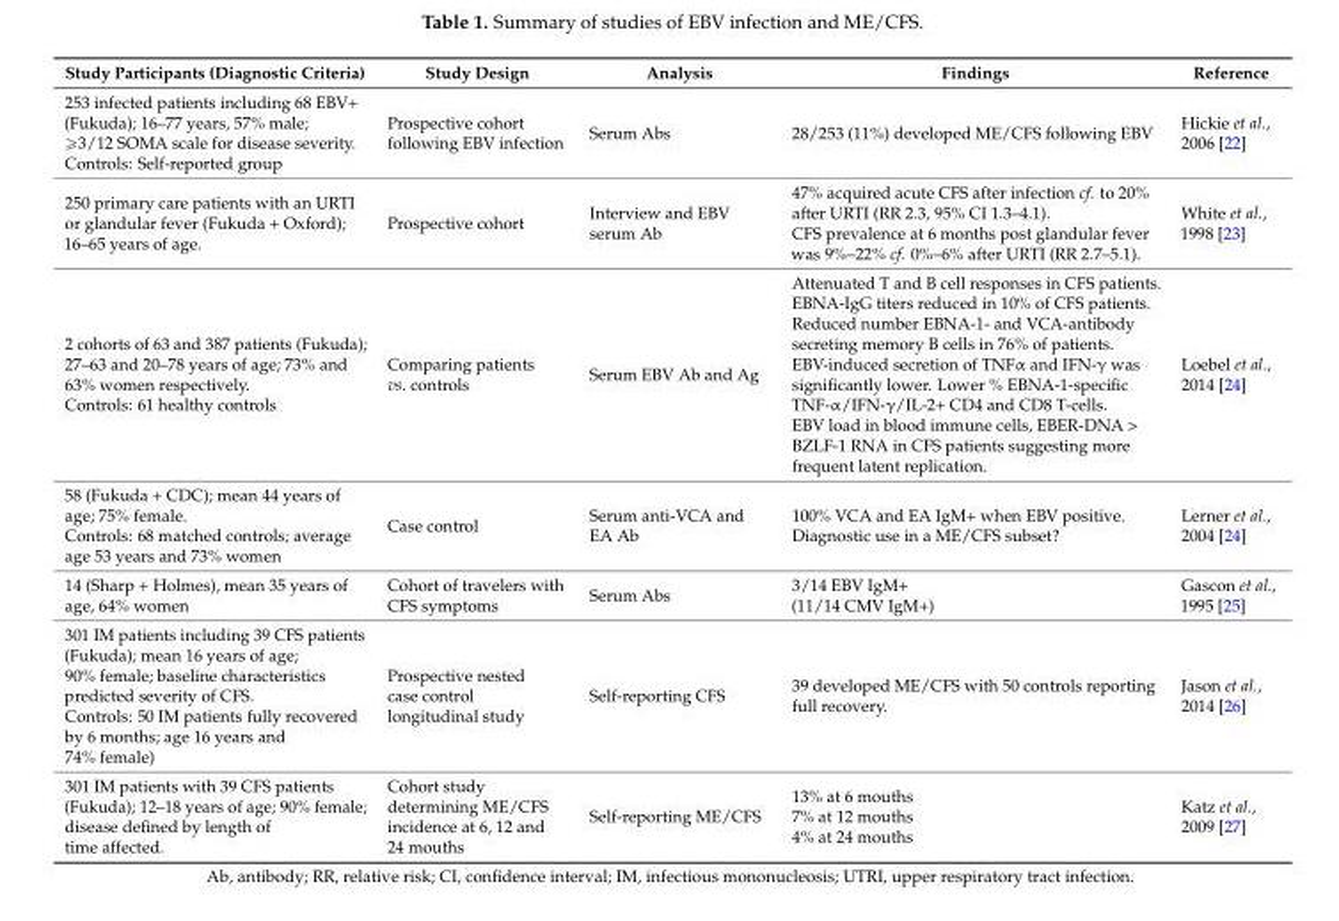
<table><thead><tr><td>Study Participants (Diagnostic Criteria)</td><td>Study Design</td><td>Analysis</td><td>Findings</td><td>Reference</td></tr></thead><tbody><tr><td>253 infected patients including 68 EBV+ (Fukuda); 16–77 years, 57% male; ě3/12 SOMA scale for disease severity. Controls: Self-reported group</td><td>Prospective cohort following EBV infection</td><td>Serum Abs</td><td>28/253 (11%) developed ME/CFS following EBV</td><td>Hickie et al., 2006 [22]</td></tr><tr><td>250 primary care patients with an URTI or glandular fever (Fukuda + Oxford); 16–65 years of age.</td><td>Prospective cohort</td><td>Interview and EBV serum Ab</td><td>47% acquired acute CFS after infection cf. to 20% after URTI (RR 2.3, 95% CI 1.3–4.1). CFS prevalence at 6 months post glandular fever was 9%–22% cf. 0%–6% after URTI (RR 2.7–5.1).</td><td>White et al., 1998 [23]</td></tr><tr><td>2 cohorts of 63 and 387 patients (Fukuda); 27–63 and 20–78 years of age; 73% and 63% women respectively. Controls: 61 healthy controls</td><td>Comparing patients vs. controls</td><td>Serum EBV Ab and Ag</td><td>Attenuated T and B cell responses in CFS patients. EBNA-IgG titers reduced in 10% of CFS patients. Reduced number EBNA-1- and VCA-antibody secreting memory B cells in 76% of patients. EBV-induced secretion of TNFα and IFN-γ was significantly lower. Lower % EBNA-1-specific TNF-α/IFN-γ/IL-2+ CD4 and CD8 T-cells. EBV load in blood immune cells, EBER-DNA &gt; BZLF-1 RNA in CFS patients suggesting more frequent latent replication.</td><td>Loebel et al., 2014 [24]</td></tr><tr><td>58 (Fukuda + CDC); mean 44 years of age; 75% female. Controls: 68 matched controls; average age 53 years and 73% women</td><td>Case control</td><td>Serum anti-VCA and EA Ab</td><td>100% VCA and EA IgM+ when EBV positive. Diagnostic use in a ME/CFS subset?</td><td>Lerner et al., 2004 [24]</td></tr><tr><td>14 (Sharp + Holmes), mean 35 years of age, 64% women</td><td>Cohort of travelers with CFS symptoms</td><td>Serum Abs</td><td>3/14 EBV IgM+ (11/14 CMV IgM+)</td><td>Gascon et al., 1995 [25]</td></tr><tr><td>301 IM patients including 39 CFS patients (Fukuda); mean 16 years of age; 90% female; baseline characteristics predicted severity of CFS. Controls: 50 IM patients fully recovered by 6 months; age 16 years and 74% female)</td><td>Prospective nested case control longitudinal study</td><td>Self-reporting CFS</td><td>39 developed ME/CFS with 50 controls reporting full recovery.</td><td>Jason et al., 2014 [26]</td></tr><tr><td>301 IM patients with 39 CFS patients (Fukuda); 12–18 years of age; 90% female; disease defined by length of time affected.</td><td>Cohort study determining ME/CFS incidence at 6, 12 and 24 mouths</td><td>Self-reporting ME/CFS</td><td>13% at 6 mouths 7% at 12 mouths 4% at 24 mouths</td><td>Katz et al., 2009 [27]</td></tr></tbody></table>